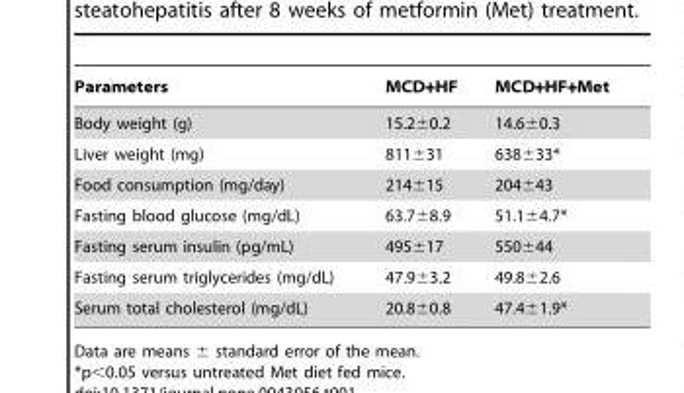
<table><thead><tr><td>Parameters</td><td>MCD+HF</td><td>MCD+HF+Met</td></tr></thead><tbody><tr><td>Body weight (g)</td><td>15.2±0.2</td><td>14.6±0.3</td></tr><tr><td>Liver weight (mg)</td><td>811±31</td><td>638±33*</td></tr><tr><td>Food consumption (mg/day)</td><td>214±15</td><td>204±43</td></tr><tr><td>Fasting blood glucose (mg/dL)</td><td>63.7±8.9</td><td>51.1±4.7*</td></tr><tr><td>Fasting serum insulin (pg/mL)</td><td>495±17</td><td>550±44</td></tr><tr><td>Fasting serum triglycerides (mg/dL)</td><td>47.9±3.2</td><td>49.8±2.6</td></tr><tr><td>Serum total cholesterol (mg/dL)</td><td>20.8±0.8</td><td>47.4±1.9*</td></tr></tbody></table>